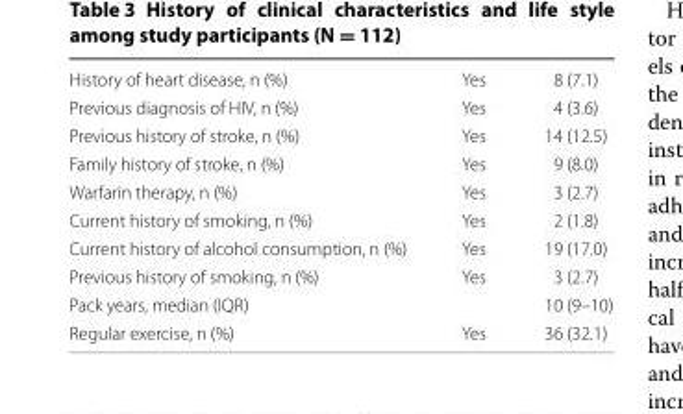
<table><tbody><tr><td>History of heart disease, n (%)</td><td>Yes</td><td>8 (7.1)</td></tr><tr><td>Previous diagnosis of HIV, n (%)</td><td>Yes</td><td>4 (3.6)</td></tr><tr><td>Previous history of stroke, n (%)</td><td>Yes</td><td>14 (12.5)</td></tr><tr><td>Family history of stroke, n (%)</td><td>Yes</td><td>9 (8.0)</td></tr><tr><td>Warfarin therapy, n (%)</td><td>Yes</td><td>3 (2.7)</td></tr><tr><td>Current history of smoking, n (%)</td><td>Yes</td><td>2 (1.8)</td></tr><tr><td>Current history of alcohol consumption, n (%)</td><td>Yes</td><td>19 (17.0)</td></tr><tr><td>Previous history of smoking, n (%)</td><td>Yes</td><td>3 (2.7)</td></tr><tr><td>Pack years, median (IQR)</td><td></td><td>10 (9–10)</td></tr><tr><td>Regular exercise, n (%)</td><td>Yes</td><td>36 (32.1)</td></tr></tbody></table>